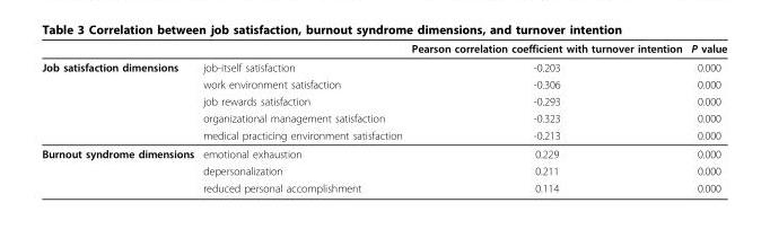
<table><thead><tr><td></td><td></td><td>Pearson correlation coefficient with turnover intention</td><td>P value</td></tr></thead><tbody><tr><td rowspan="5">Job satisfaction dimensions</td><td>job-itself satisfaction</td><td>-0.203</td><td>0.000</td></tr><tr><td>work environment satisfaction</td><td>-0.306</td><td>0.000</td></tr><tr><td>job rewards satisfaction</td><td>-0.293</td><td>0.000</td></tr><tr><td>organizational management satisfaction</td><td>-0.323</td><td>0.000</td></tr><tr><td>medical practicing environment satisfaction</td><td>-0.213</td><td>0.000</td></tr><tr><td rowspan="3">Burnout syndrome dimensions</td><td>emotional exhaustion</td><td>0.229</td><td>0.000</td></tr><tr><td>depersonalization</td><td>0.211</td><td>0.000</td></tr><tr><td>reduced personal accomplishment</td><td>0.114</td><td>0.000</td></tr></tbody></table>